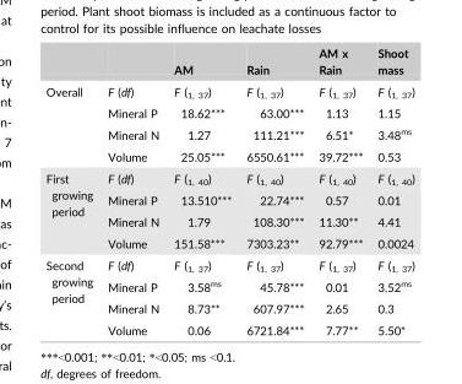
<table><thead><tr><td></td><td></td><td>AM</td><td>Rain</td><td>AM x Rain</td><td>Shoot mass</td></tr></thead><tbody><tr><td rowspan="4">Overall</td><td>F (df)</td><td>F (<sub>1, 37</sub>)</td><td>F (<sub>1, 37</sub>)</td><td>F (<sub>1, 37</sub>)</td><td>F (<sub>1, 37</sub>)</td></tr><tr><td>Mineral P</td><td>18.62***</td><td>63.00***</td><td>1.13</td><td>1.15</td></tr><tr><td>Mineral N</td><td>1.27</td><td>111.21***</td><td>6.51*</td><td>3.48<sup>ms</sup></td></tr><tr><td>Volume</td><td>25.05***</td><td>6550.61***</td><td>39.72***</td><td>0.53</td></tr><tr><td rowspan="4">First growing period</td><td>F (df)</td><td>F (<sub>1, 40</sub>)</td><td>F (<sub>1, 40</sub>)</td><td>F (<sub>1, 40</sub>)</td><td>F (<sub>1, 40</sub>)</td></tr><tr><td>Mineral P</td><td>13.510***</td><td>22.74***</td><td>0.57</td><td>0.01</td></tr><tr><td>Mineral N</td><td>1.79</td><td>108.30***</td><td>11.30**</td><td>4.41</td></tr><tr><td>Volume</td><td>151.58***</td><td>7303.23**</td><td>92.79***</td><td>0.0024</td></tr><tr><td rowspan="4">Second growing period</td><td>F (df)</td><td>F (<sub>1, 37</sub>)</td><td>F (<sub>1, 37</sub>)</td><td>F (<sub>1, 37</sub>)</td><td>F (<sub>1, 37</sub>)</td></tr><tr><td>Mineral P</td><td>3.58<sup>ms</sup></td><td>45.78***</td><td>0.01</td><td>3.52<sup>ms</sup></td></tr><tr><td>Mineral N</td><td>8.73**</td><td>607.97***</td><td>2.65</td><td>0.3</td></tr><tr><td>Volume</td><td>0.06</td><td>6721.84***</td><td>7.77**</td><td>5.50*</td></tr></tbody></table>